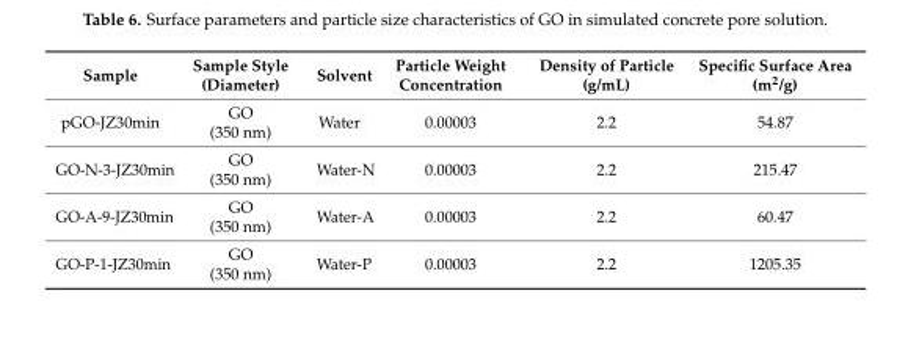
<table><thead><tr><td>Sample</td><td>Sample Style (Diameter)</td><td>Solvent</td><td>Particle Weight Concentration</td><td>Density of Particle (g/mL)</td><td>Specific Surface Area (m<sup>2</sup>/g)</td></tr></thead><tbody><tr><td>pGO-JZ30min</td><td>GO (350 nm)</td><td>Water</td><td>0.00003</td><td>2.2</td><td>54.87</td></tr><tr><td>GO-N-3-JZ30min</td><td>GO (350 nm)</td><td>Water-N</td><td>0.00003</td><td>2.2</td><td>215.47</td></tr><tr><td>GO-A-9-JZ30min</td><td>GO (350 nm)</td><td>Water-A</td><td>0.00003</td><td>2.2</td><td>60.47</td></tr><tr><td>GO-P-1-JZ30min</td><td>GO (350 nm)</td><td>Water-P</td><td>0.00003</td><td>2.2</td><td>1205.35</td></tr></tbody></table>